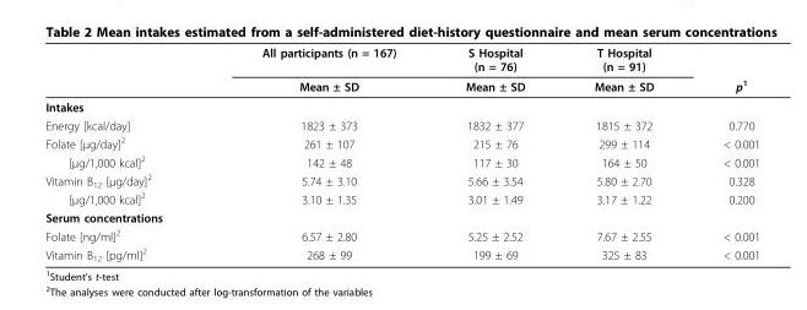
<table><thead><tr><td rowspan="2"></td><td rowspan="2">All participants (n = 167) Mean ± SD</td><td rowspan="2">S Hospital (n = 76) Mean ± SD</td><td rowspan="2">T Hospital (n = 91) Mean ± SD</td><td rowspan="2">p<sup>1</sup></td></tr><tr></tr></thead><tbody><tr><td colspan="5">Intakes</td></tr><tr><td>Energy [kcal/day]</td><td>1823 ± 373</td><td>1832 ± 377</td><td>1815 ± 372</td><td>0.770</td></tr><tr><td>Folate [μg/day]<sup>2</sup></td><td>261 ± 107</td><td>215 ± 76</td><td>299 ± 114</td><td>&lt; 0.001</td></tr><tr><td>[μg/1,000 kcal]<sup>2</sup></td><td>142 ± 48</td><td>117 ± 30</td><td>164 ± 50</td><td>&lt; 0.001</td></tr><tr><td>Vitamin B<sub>12</sub> [μg/day]<sup>2</sup></td><td>5.74 ± 3.10</td><td>5.66 ± 3.54</td><td>5.80 ± 2.70</td><td>0.328</td></tr><tr><td>[μg/1,000 kcal]<sup>2</sup></td><td>3.10 ± 1.35</td><td>3.01 ± 1.49</td><td>3.17 ± 1.22</td><td>0.200</td></tr><tr><td colspan="5">Serum concentrations</td></tr><tr><td>Folate [ng/ml]<sup>2</sup></td><td>6.57 ± 2.80</td><td>5.25 ± 2.52</td><td>7.67 ± 2.55</td><td>&lt; 0.001</td></tr><tr><td>Vitamin B<sub>12</sub> [pg/ml]<sup>2</sup></td><td>268 ± 99</td><td>199 ± 69</td><td>325 ± 83</td><td>&lt; 0.001</td></tr></tbody></table>